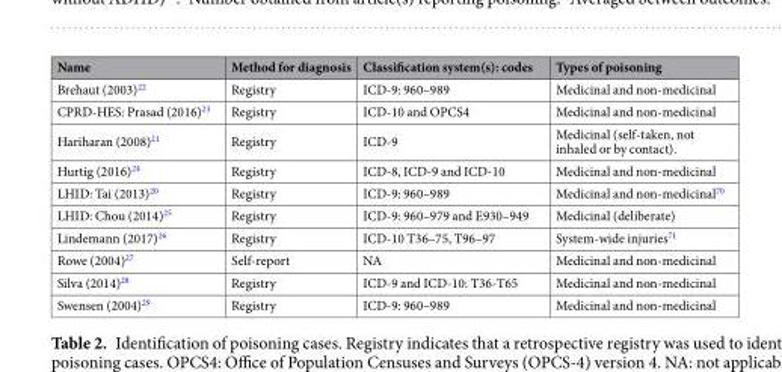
<table><thead><tr><td>Name</td><td>Method for diagnosis</td><td>Classification system(s): codes</td><td>Types of poisoning</td></tr></thead><tbody><tr><td>Brehaut (2003)<sup>22</sup></td><td>Registry</td><td>ICD-9: 960–989</td><td>Medicinal and non-medicinal</td></tr><tr><td>CPRD-HES: Prasad (2016)<sup>23</sup></td><td>Registry</td><td>ICD-10 and OPCS4</td><td>Medicinal and non-medicinal</td></tr><tr><td>Hariharan (2008)<sup>21</sup></td><td>Registry</td><td>ICD-9</td><td>Medicinal (self-taken, not inhaled or by contact).</td></tr><tr><td>Hurtig (2016)<sup>24</sup></td><td>Registry</td><td>ICD-8, ICD-9 and ICD-10</td><td>Medicinal and non-medicinal</td></tr><tr><td>LHID: Tai (2013)<sup>20</sup></td><td>Registry</td><td>ICD-9: 960–989</td><td>Medicinal and non-medicinal<sup>70</sup></td></tr><tr><td>LHID: Chou (2014)<sup>25</sup></td><td>Registry</td><td>ICD-9: 960–979 and E930–949</td><td>Medicinal (deliberate)</td></tr><tr><td>Lindemann (2017)<sup>26</sup></td><td>Registry</td><td>ICD-10 T36–75, T96–97</td><td>System-wide injuries<sup>71</sup></td></tr><tr><td>Rowe (2004)<sup>27</sup></td><td>Self-report</td><td>NA</td><td>Medicinal and non-medicinal</td></tr><tr><td>Silva (2014)<sup>28</sup></td><td>Registry</td><td>ICD-9 and ICD-10: T36-T65</td><td>Medicinal and non-medicinal</td></tr><tr><td>Swensen (2004)<sup>29</sup></td><td>Registry</td><td>ICD-9: 960–989</td><td>Medicinal and non-medicinal</td></tr></tbody></table>